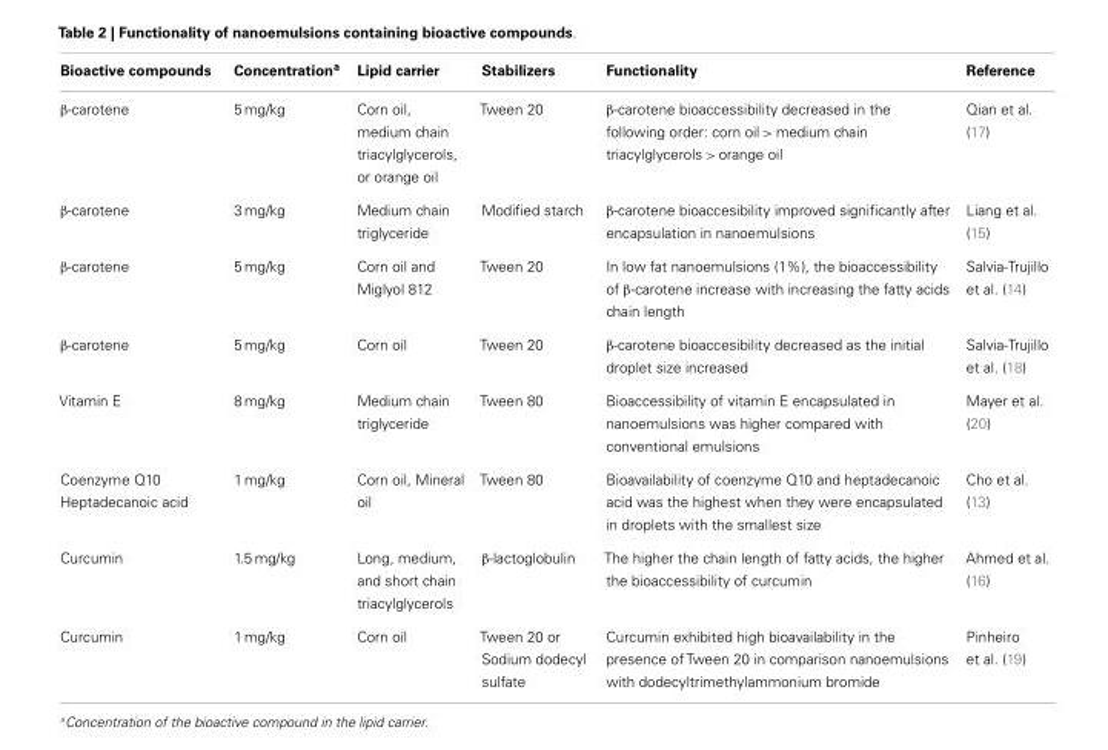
<table><thead><tr><td>Bioactive compounds</td><td>Concentration<sup>a</sup></td><td>Lipid carrier</td><td>Stabilizers</td><td>Functionality</td><td>Reference</td></tr></thead><tbody><tr><td>β-carotene</td><td>5 mg/kg</td><td>Corn oil, medium chain triacylglycerols, or orange oil</td><td>Tween 20</td><td>β-carotene bioaccessibility decreased in the following order: corn oil &gt; medium chain triacylglycerols &gt; orange oil</td><td>Qian et al. (17)</td></tr><tr><td>β-carotene</td><td>3 mg/kg</td><td>Medium chain triglyceride</td><td>Modified starch</td><td>β-carotene bioaccesibility improved significantly after encapsulation in nanoemulsions</td><td>Liang et al. (15)</td></tr><tr><td>β-carotene</td><td>5 mg/kg</td><td>Corn oil and Miglyol 812</td><td>Tween 20</td><td>In low fat nanoemulsions (1%), the bioaccessibility of β-carotene increase with increasing the fatty acids chain length</td><td>Salvia-Trujillo et al. (14)</td></tr><tr><td>β-carotene</td><td>5 mg/kg</td><td>Corn oil</td><td>Tween 20</td><td>β-carotene bioaccesibility decreased as the initial droplet size increased</td><td>Salvia-Trujillo et al. (18)</td></tr><tr><td>Vitamin E</td><td>8 mg/kg</td><td>Medium chain triglyceride</td><td>Tween 80</td><td>Bioaccessibility of vitamin E encapsulated in nanoemulsions was higher compared with conventional emulsions</td><td>Mayer et al. (20)</td></tr><tr><td>Coenzyme Q10 Heptadecanoic acid</td><td>1 mg/kg</td><td>Corn oil, Mineral oil</td><td>Tween 80</td><td>Bioavailability of coenzyme Q10 and heptadecanoic acid was the highest when they were encapsulated in droplets with the smallest size</td><td>Cho et al. (13)</td></tr><tr><td>Curcumin</td><td>1.5 mg/kg</td><td>Long, medium, and short chain triacylglycerols</td><td>β-lactoglobulin</td><td>The higher the chain length of fatty acids, the higher the bioaccessibility of curcumin</td><td>Ahmed et al. (16)</td></tr><tr><td>Curcumin</td><td>1 mg/kg</td><td>Corn oil</td><td>Tween 20 or Sodium dodecyl sulfate</td><td>Curcumin exhibited high bioavailability in the presence of Tween 20 in comparison nanoemulsions with dodecyltrimethylammonium bromide</td><td>Pinheiro et al. (19)</td></tr></tbody></table>